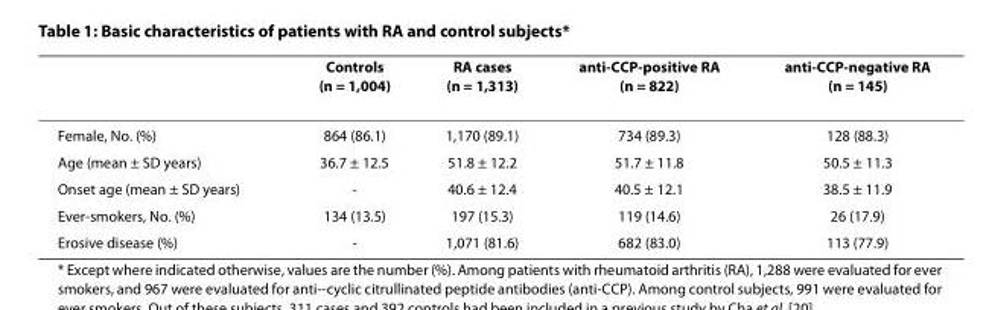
<table><thead><tr><td></td><td>Controls (n = 1,004)</td><td>RA cases (n = 1,313)</td><td>anti-CCP-positive RA (n = 822)</td><td>anti-CCP-negative RA (n = 145)</td></tr></thead><tbody><tr><td>Female, No. (%)</td><td>864 (86.1)</td><td>1,170 (89.1)</td><td>734 (89.3)</td><td>128 (88.3)</td></tr><tr><td>Age (mean ± SD years)</td><td>36.7 ± 12.5</td><td>51.8 ± 12.2</td><td>51.7 ± 11.8</td><td>50.5 ± 11.3</td></tr><tr><td>Onset age (mean ± SD years)</td><td>-</td><td>40.6 ± 12.4</td><td>40.5 ± 12.1</td><td>38.5 ± 11.9</td></tr><tr><td>Ever-smokers, No. (%)</td><td>134 (13.5)</td><td>197 (15.3)</td><td>119 (14.6)</td><td>26 (17.9)</td></tr><tr><td>Erosive disease (%)</td><td>-</td><td>1,071 (81.6)</td><td>682 (83.0)</td><td>113 (77.9)</td></tr></tbody></table>